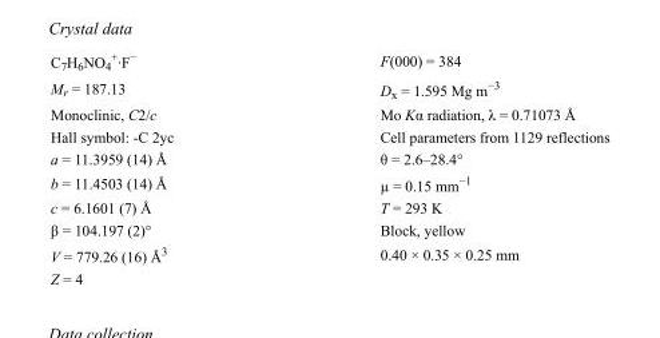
<table><tbody><tr><td>C<sub>7</sub>H<sub>6</sub>NO<sub>4</sub> <sup>+</sup>·F<sup>−</sup></td><td>F(000) = 384</td></tr><tr><td>M<sub>r</sub> = 187.13</td><td>D<sub>x</sub> = 1.595 Mg m<sup>−3</sup></td></tr><tr><td>Monoclinic, C2/c</td><td>Mo Kα radiation, λ = 0.71073 Å</td></tr><tr><td>Hall symbol: -C 2yc</td><td>Cell parameters from 1129 reflections</td></tr><tr><td>a = 11.3959 (14) Å</td><td>θ = 2.6–28.4°</td></tr><tr><td>b = 11.4503 (14) Å</td><td>µ = 0.15 mm<sup>−1</sup></td></tr><tr><td>c = 6.1601 (7) Å</td><td>T = 293 K</td></tr><tr><td>β = 104.197 (2)°</td><td>Block, yellow</td></tr><tr><td>V = 779.26 (16) Å<sup>3</sup></td><td>0.40 × 0.35 × 0.25 mm</td></tr><tr><td>Z = 4</td><td></td></tr></tbody></table>